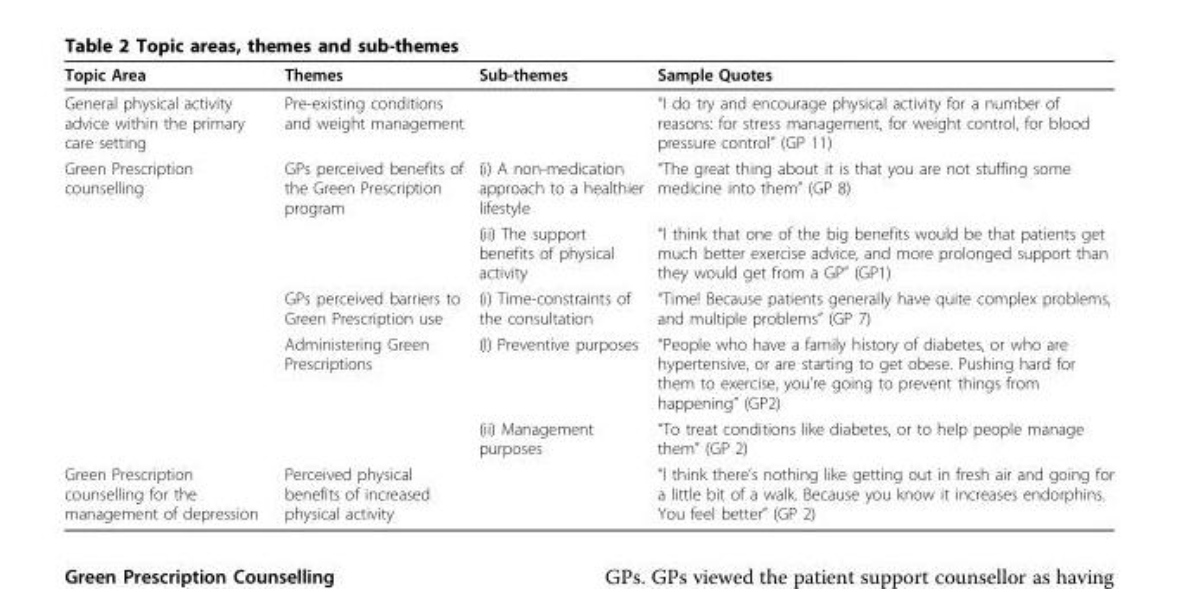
<table><thead><tr><td>Topic Area</td><td>Themes</td><td>Sub-themes</td><td>Sample Quotes</td></tr></thead><tbody><tr><td>General physical activity advice within the primary care setting</td><td>Pre-existing conditions and weight management</td><td></td><td>“I do try and encourage physical activity for a number of reasons: for stress management, for weight control, for blood pressure control” (GP 11)</td></tr><tr><td rowspan="5">Green Prescription counselling</td><td>GPs perceived benefits of the Green Prescription program</td><td>(i) A non-medication approach to a healthier lifestyle</td><td>“The great thing about it is that you are not stuffing some medicine into them” (GP 8)</td></tr><tr><td></td><td>(ii) The support benefits of physical activity</td><td>“I think that one of the big benefits would be that patients get much better exercise advice, and more prolonged support than they would get from a GP” (GP1)</td></tr><tr><td>GPs perceived barriers to Green Prescription use</td><td>(i) Time-constraints of the consultation</td><td>“Time! Because patients generally have quite complex problems, and multiple problems” (GP 7)</td></tr><tr><td>Administering Green Prescriptions</td><td>(I) Preventive purposes</td><td>“People who have a family history of diabetes, or who are hypertensive, or are starting to get obese. Pushing hard for them to exercise, you’re going to prevent things from happening” (GP2)</td></tr><tr><td></td><td>(ii) Management purposes</td><td>“To treat conditions like diabetes, or to help people manage them” (GP 2)</td></tr><tr><td>Green Prescription counselling for the management of depression</td><td>Perceived physical benefits of increased physical activity</td><td></td><td>“I think there’s nothing like getting out in fresh air and going for a little bit of a walk. Because you know it increases endorphins. You feel better” (GP 2)</td></tr></tbody></table>